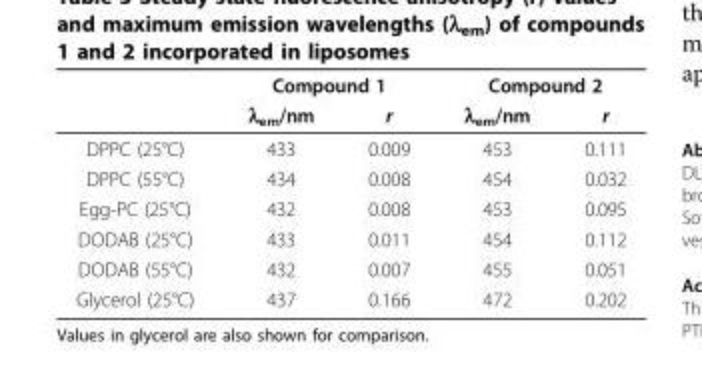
<table><thead><tr><td rowspan="2"></td><td colspan="2">Compound 1</td><td colspan="2">Compound 2</td></tr><tr><td>λ<sub>em</sub>/nm</td><td>r</td><td>λ<sub>em</sub>/nm</td><td>r</td></tr></thead><tbody><tr><td>DPPC (25°C)</td><td>433</td><td>0.009</td><td>453</td><td>0.111</td></tr><tr><td>DPPC (55°C)</td><td>434</td><td>0.008</td><td>454</td><td>0.032</td></tr><tr><td>Egg-PC (25°C)</td><td>432</td><td>0.008</td><td>453</td><td>0.095</td></tr><tr><td>DODAB (25°C)</td><td>433</td><td>0.011</td><td>454</td><td>0.112</td></tr><tr><td>DODAB (55°C)</td><td>432</td><td>0.007</td><td>455</td><td>0.051</td></tr><tr><td>Glycerol (25°C)</td><td>437</td><td>0.166</td><td>472</td><td>0.202</td></tr></tbody></table>